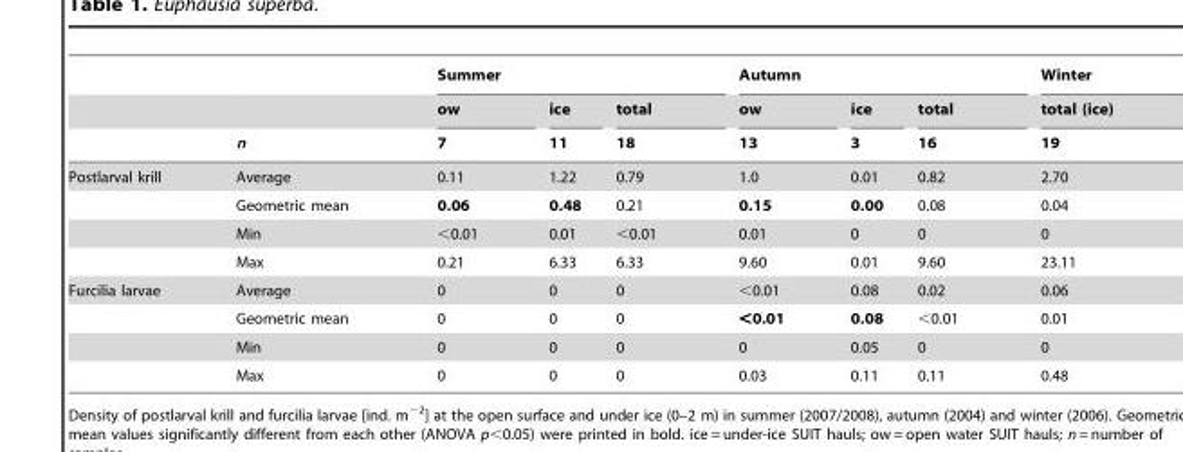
<table><thead><tr><td rowspan="3"></td><td rowspan="3">n</td><td colspan="3">Summer</td><td colspan="3">Autumn</td><td rowspan="3">Winter total (ice) 19</td></tr><tr><td rowspan="2">ow 7</td><td rowspan="2">ice 11</td><td rowspan="2">total 18</td><td rowspan="2">ow 13</td><td rowspan="2">ice 3</td><td rowspan="2">total 16</td></tr><tr></tr></thead><tbody><tr><td rowspan="4">Postlarval krill</td><td>Average</td><td>0.11</td><td>1.22</td><td>0.79</td><td>1.0</td><td>0.01</td><td>0.82</td><td>2.70</td></tr><tr><td>Geometric mean</td><td>0.06</td><td>0.48</td><td>0.21</td><td>0.15</td><td>0.00</td><td>0.08</td><td>0.04</td></tr><tr><td>Min</td><td>&lt;0.01</td><td>0.01</td><td>&lt;0.01</td><td>0.01</td><td>0</td><td>0</td><td>0</td></tr><tr><td>Max</td><td>0.21</td><td>6.33</td><td>6.33</td><td>9.60</td><td>0.01</td><td>9.60</td><td>23.11</td></tr><tr><td rowspan="4">Furcilia larvae</td><td>Average</td><td>0</td><td>0</td><td>0</td><td>&lt;0.01</td><td>0.08</td><td>0.02</td><td>0.06</td></tr><tr><td>Geometric mean</td><td>0</td><td>0</td><td>0</td><td>&lt;0.01</td><td>0.08</td><td>&lt;0.01</td><td>0.01</td></tr><tr><td>Min</td><td>0</td><td>0</td><td>0</td><td>0</td><td>0.05</td><td>0</td><td>0</td></tr><tr><td>Max</td><td>0</td><td>0</td><td>0</td><td>0.03</td><td>0.11</td><td>0.11</td><td>0.48</td></tr></tbody></table>